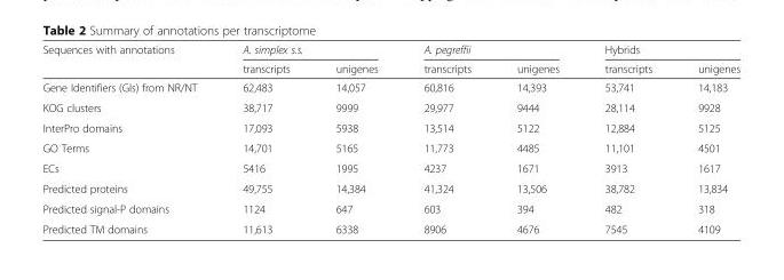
<table><thead><tr><td rowspan="2">Sequences with annotations</td><td colspan="2">A. simplex s.s.</td><td colspan="2">A. pegreffii</td><td colspan="2">Hybrids</td></tr><tr><td>transcripts</td><td>unigenes</td><td>transcripts</td><td>unigenes</td><td>transcripts</td><td>unigenes</td></tr></thead><tbody><tr><td>Gene Identifiers (GIs) from NR/NT</td><td>62,483</td><td>14,057</td><td>60,816</td><td>14,393</td><td>53,741</td><td>14,183</td></tr><tr><td>KOG clusters</td><td>38,717</td><td>9999</td><td>29,977</td><td>9444</td><td>28,114</td><td>9928</td></tr><tr><td>InterPro domains</td><td>17,093</td><td>5938</td><td>13,514</td><td>5122</td><td>12,884</td><td>5125</td></tr><tr><td>GO Terms</td><td>14,701</td><td>5165</td><td>11,773</td><td>4485</td><td>11,101</td><td>4501</td></tr><tr><td>ECs</td><td>5416</td><td>1995</td><td>4237</td><td>1671</td><td>3913</td><td>1617</td></tr><tr><td>Predicted proteins</td><td>49,755</td><td>14,384</td><td>41,324</td><td>13,506</td><td>38,782</td><td>13,834</td></tr><tr><td>Predicted signal-P domains</td><td>1124</td><td>647</td><td>603</td><td>394</td><td>482</td><td>318</td></tr><tr><td>Predicted TM domains</td><td>11,613</td><td>6338</td><td>8906</td><td>4676</td><td>7545</td><td>4109</td></tr></tbody></table>